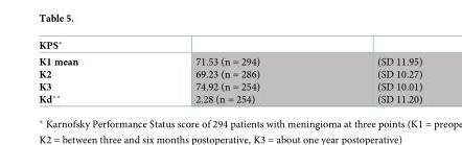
<table><thead><tr><td>KPS*</td><td></td><td></td></tr></thead><tbody><tr><td>K1 mean K2 K3 Kd**</td><td>71.53 (n = 294) 69.23 (n = 286) 74.92 (n = 254) 2.28 (n = 254)</td><td>(SD 11.95) (SD 10.27) (SD 10.01) (SD 11.20)</td></tr></tbody></table>